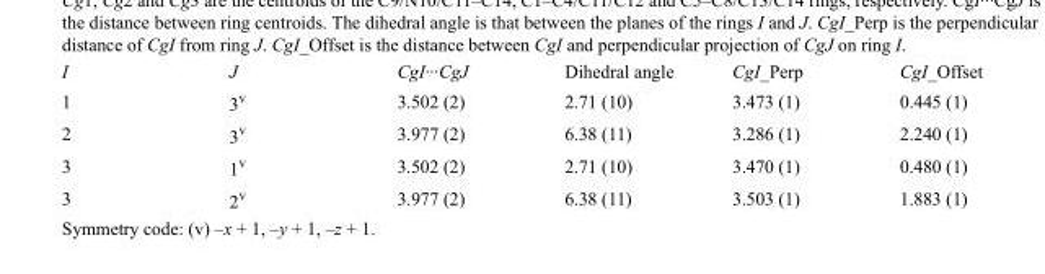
<table><thead><tr><td>I</td><td>J</td><td>CgI···CgJ</td><td>Dihedral angle</td><td>CgI_Perp</td><td>CgI_Offset</td></tr></thead><tbody><tr><td>1</td><td>3<sup>v</sup></td><td>3.502 (2)</td><td>2.71 (10)</td><td>3.473 (1)</td><td>0.445 (1)</td></tr><tr><td>2</td><td>3<sup>v</sup></td><td>3.977 (2)</td><td>6.38 (11)</td><td>3.286 (1)</td><td>2.240 (1)</td></tr><tr><td>3</td><td>1<sup>v</sup></td><td>3.502 (2)</td><td>2.71 (10)</td><td>3.470 (1)</td><td>0.480 (1)</td></tr><tr><td>3</td><td>2<sup>v</sup></td><td>3.977 (2)</td><td>6.38 (11)</td><td>3.503 (1)</td><td>1.883 (1)</td></tr></tbody></table>